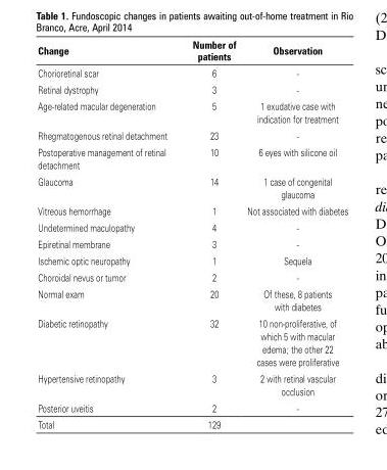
<table><thead><tr><td>Change</td><td>Number of patients</td><td>Observation</td></tr></thead><tbody><tr><td>Chorioretinal scar</td><td>6</td><td>-</td></tr><tr><td>Retinal dystrophy</td><td>3</td><td>-</td></tr><tr><td>Age-related macular degeneration</td><td>5</td><td>1 exudative case with indication for treatment</td></tr><tr><td>Rhegmatogenous retinal detachment</td><td>23</td><td>-</td></tr><tr><td>Postoperative management of retinal detachment</td><td>10</td><td>6 eyes with silicone oil</td></tr><tr><td>Glaucoma</td><td>14</td><td>1 case of congenital glaucoma</td></tr><tr><td>Vitreous hemorrhage</td><td>1</td><td>Not associated with diabetes</td></tr><tr><td>Undetermined maculopathy</td><td>4</td><td>-</td></tr><tr><td>Epiretinal membrane</td><td>3</td><td>-</td></tr><tr><td>Ischemic optic neuropathy</td><td>1</td><td>Sequela</td></tr><tr><td>Choroidal nevus or tumor</td><td>2</td><td>-</td></tr><tr><td>Normal exam</td><td>20</td><td>Of these, 8 patients with diabetes</td></tr><tr><td>Diabetic retinopathy</td><td>32</td><td>10 non-proliferative, of which 5 with macular edema; the other 22 cases were proliferative</td></tr><tr><td>Hypertensive retinopathy</td><td>3</td><td>2 with retinal vascular occlusion</td></tr><tr><td>Posterior uveitis</td><td>2</td><td>-</td></tr><tr><td>Total</td><td>129</td><td></td></tr></tbody></table>